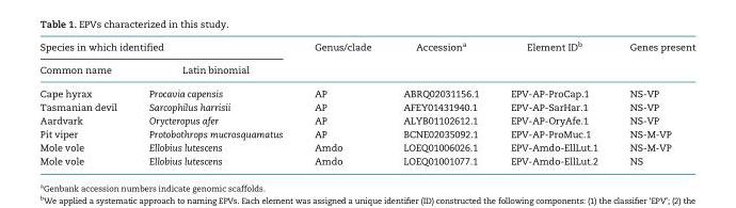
<table><thead><tr><td colspan="2">Species in which identified</td><td rowspan="2">Genus/clade</td><td rowspan="2">Accession<sup>a</sup></td><td rowspan="2">Element ID<sup>b</sup></td><td rowspan="2">Genes present</td></tr><tr><td>Common name</td><td>Latin binomial</td></tr></thead><tbody><tr><td>Cape hyrax</td><td>Procavia capensis</td><td>AP</td><td>ABRQ02031156.1</td><td>EPV-AP-ProCap.1</td><td>NS-VP</td></tr><tr><td>Tasmanian devil</td><td>Sarcophilus harrisii</td><td>AP</td><td>AFEY01431940.1</td><td>EPV-AP-SarHar.1</td><td>NS-VP</td></tr><tr><td>Aardvark</td><td>Orycteropus afer</td><td>AP</td><td>ALYB01102612.1</td><td>EPV-AP-OryAfe.1</td><td>NS-VP</td></tr><tr><td>Pit viper</td><td>Protobothrops mucrosquamatus</td><td>AP</td><td>BCNE02035092.1</td><td>EPV-AP-ProMuc.1</td><td>NS-M-VP</td></tr><tr><td>Mole vole</td><td>Ellobius lutescens</td><td>Amdo</td><td>LOEQ01006026.1</td><td>EPV-Amdo-EllLut.1</td><td>NS-M-VP</td></tr><tr><td>Mole vole</td><td>Ellobius lutescens</td><td>Amdo</td><td>LOEQ01001077.1</td><td>EPV-Amdo-EllLut.2</td><td>NS</td></tr></tbody></table>